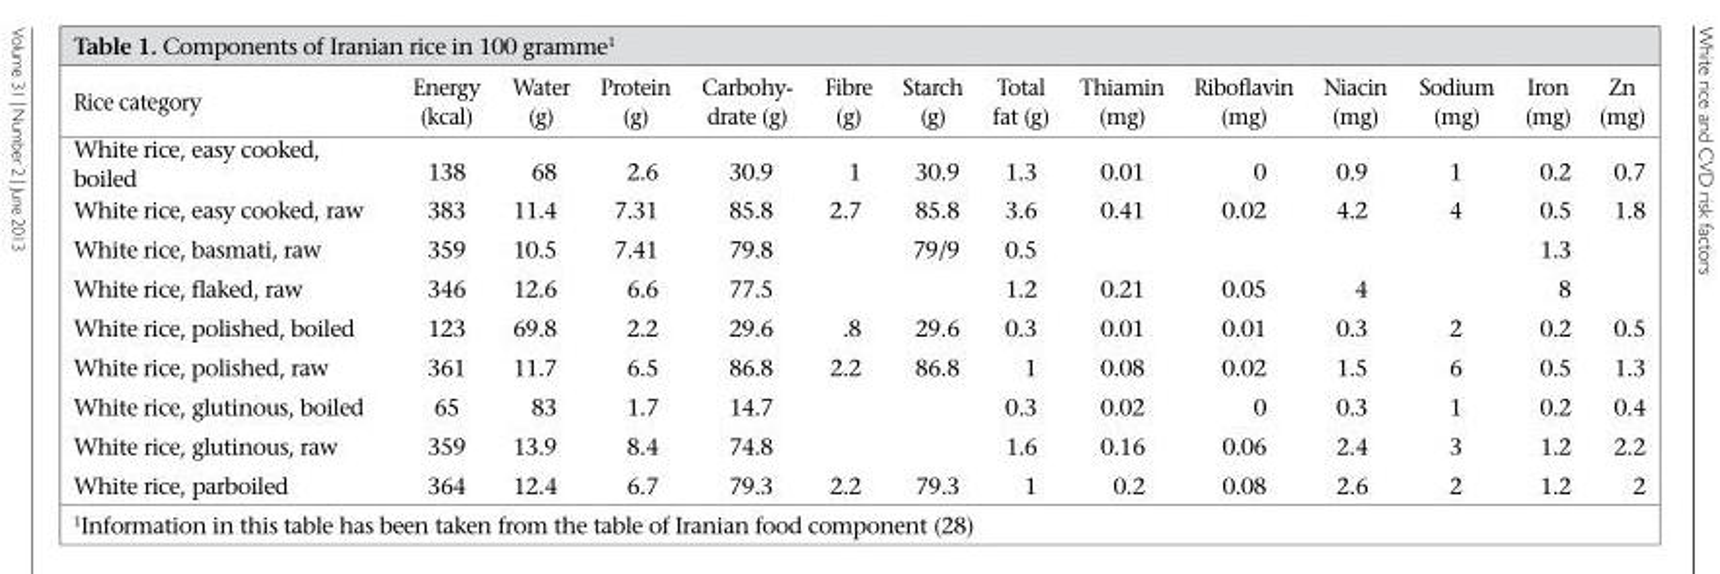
<table><thead><tr><td>Rice category</td><td>Energy (kcal)</td><td>Water (g)</td><td>Protein (g)</td><td>Carbohy- drate (g)</td><td>Fibre (g)</td><td>Starch (g)</td><td>Total fat (g)</td><td>Thiamin (mg)</td><td>Riboflavin (mg)</td><td>Niacin (mg)</td><td>Sodium (mg)</td><td>Iron (mg)</td><td>Zn (mg)</td></tr></thead><tbody><tr><td>White rice, easy cooked, boiled</td><td>138</td><td>68</td><td>2.6</td><td>30.9</td><td>1</td><td>30.9</td><td>1.3</td><td>0.01</td><td>0</td><td>0.9</td><td>1</td><td>0.2</td><td>0.7</td></tr><tr><td>White rice, easy cooked, raw</td><td>383</td><td>11.4</td><td>7.31</td><td>85.8</td><td>2.7</td><td>85.8</td><td>3.6</td><td>0.41</td><td>0.02</td><td>4.2</td><td>4</td><td>0.5</td><td>1.8</td></tr><tr><td>White rice, basmati, raw</td><td>359</td><td>10.5</td><td>7.41</td><td>79.8</td><td></td><td>79/9</td><td>0.5</td><td></td><td></td><td></td><td></td><td>1.3</td><td></td></tr><tr><td>White rice, flaked, raw</td><td>346</td><td>12.6</td><td>6.6</td><td>77.5</td><td></td><td></td><td>1.2</td><td>0.21</td><td>0.05</td><td>4</td><td></td><td>8</td><td></td></tr><tr><td>White rice, polished, boiled</td><td>123</td><td>69.8</td><td>2.2</td><td>29.6</td><td>.8</td><td>29.6</td><td>0.3</td><td>0.01</td><td>0.01</td><td>0.3</td><td>2</td><td>0.2</td><td>0.5</td></tr><tr><td>White rice, polished, raw</td><td>361</td><td>11.7</td><td>6.5</td><td>86.8</td><td>2.2</td><td>86.8</td><td>1</td><td>0.08</td><td>0.02</td><td>1.5</td><td>6</td><td>0.5</td><td>1.3</td></tr><tr><td>White rice, glutinous, boiled</td><td>65</td><td>83</td><td>1.7</td><td>14.7</td><td></td><td></td><td>0.3</td><td>0.02</td><td>0</td><td>0.3</td><td>1</td><td>0.2</td><td>0.4</td></tr><tr><td>White rice, glutinous, raw</td><td>359</td><td>13.9</td><td>8.4</td><td>74.8</td><td></td><td></td><td>1.6</td><td>0.16</td><td>0.06</td><td>2.4</td><td>3</td><td>1.2</td><td>2.2</td></tr><tr><td>White rice, parboiled</td><td>364</td><td>12.4</td><td>6.7</td><td>79.3</td><td>2.2</td><td>79.3</td><td>1</td><td>0.2</td><td>0.08</td><td>2.6</td><td>2</td><td>1.2</td><td>2</td></tr></tbody></table>